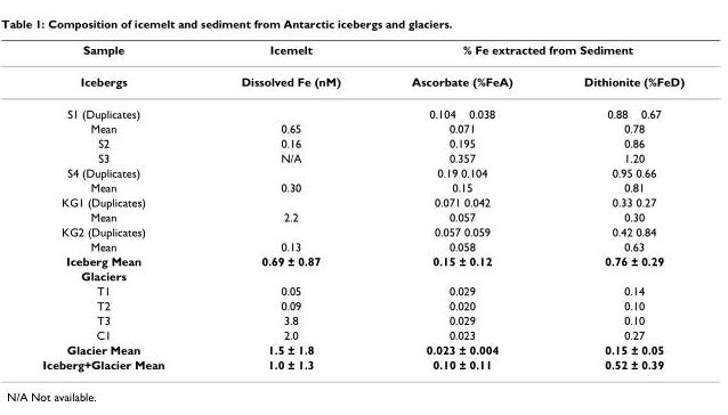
<table><thead><tr><td rowspan="2">Sample Icebergs</td><td rowspan="2">Icemelt Dissolved Fe (nM)</td><td colspan="2">% Fe extracted from Sediment</td></tr><tr><td>Ascorbate (%FeA)</td><td>Dithionite (%FeD)</td></tr></thead><tbody><tr><td>S1 (Duplicates)</td><td></td><td>0.104 0.038</td><td>0.88 0.67</td></tr><tr><td>Mean</td><td>0.65</td><td>0.071</td><td>0.78</td></tr><tr><td>S2</td><td>0.16</td><td>0.195</td><td>0.86</td></tr><tr><td>S3</td><td>N/A</td><td>0.357</td><td>1.20</td></tr><tr><td>S4 (Duplicates)</td><td></td><td>0.19 0.104</td><td>0.95 0.66</td></tr><tr><td>Mean</td><td>0.30</td><td>0.15</td><td>0.81</td></tr><tr><td>KG1 (Duplicates)</td><td></td><td>0.071 0.042</td><td>0.33 0.27</td></tr><tr><td>Mean</td><td>2.2</td><td>0.057</td><td>0.30</td></tr><tr><td>KG2 (Duplicates)</td><td></td><td>0.057 0.059</td><td>0.42 0.84</td></tr><tr><td>Mean</td><td>0.13</td><td>0.058</td><td>0.63</td></tr><tr><td>Iceberg Mean</td><td>0.69 ± 0.87</td><td>0.15 ± 0.12</td><td>0.76 ± 0.29</td></tr><tr><td colspan="4">Glaciers</td></tr><tr><td>T1</td><td>0.05</td><td>0.029</td><td>0.14</td></tr><tr><td>T2</td><td>0.09</td><td>0.020</td><td>0.10</td></tr><tr><td>T3</td><td>3.8</td><td>0.029</td><td>0.10</td></tr><tr><td>C1</td><td>2.0</td><td>0.023</td><td>0.27</td></tr><tr><td>Glacier Mean</td><td>1.5 ± 1.8</td><td>0.023 ± 0.004</td><td>0.15 ± 0.05</td></tr><tr><td>Iceberg+Glacier Mean</td><td>1.0 ± 1.3</td><td>0.10 ± 0.11</td><td>0.52 ± 0.39</td></tr></tbody></table>